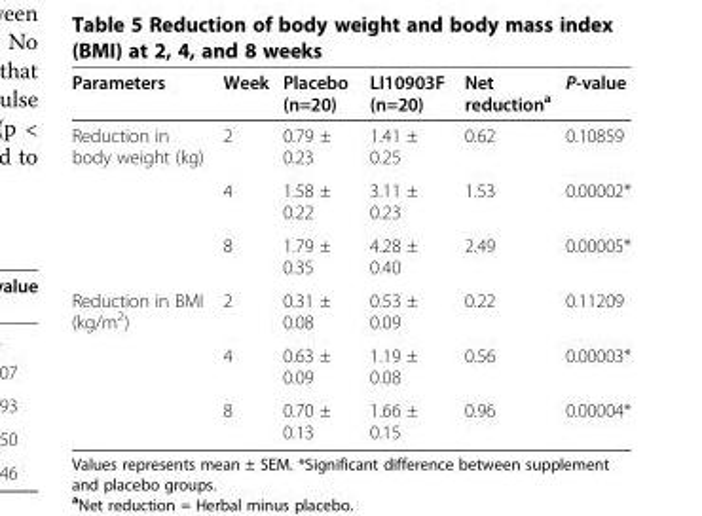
<table><thead><tr><td>Parameters</td><td>Week</td><td>Placebo (n=20)</td><td>LI10903F (n=20)</td><td>Net reduction<sup>a</sup></td><td>P-value</td></tr></thead><tbody><tr><td rowspan="3">Reduction in body weight (kg)</td><td>2</td><td>0.79 ± 0.23</td><td>1.41 ± 0.25</td><td>0.62</td><td>0.10859</td></tr><tr><td>4</td><td>1.58 ± 0.22</td><td>3.11 ± 0.23</td><td>1.53</td><td>0.00002*</td></tr><tr><td>8</td><td>1.79 ± 0.35</td><td>4.28 ± 0.40</td><td>2.49</td><td>0.00005*</td></tr><tr><td rowspan="3">Reduction in BMI (kg/m<sup>2</sup>)</td><td>2</td><td>0.31 ± 0.08</td><td>0.53 ± 0.09</td><td>0.22</td><td>0.11209</td></tr><tr><td>4</td><td>0.63 ± 0.09</td><td>1.19 ± 0.08</td><td>0.56</td><td>0.00003*</td></tr><tr><td>8</td><td>0.70 ± 0.13</td><td>1.66 ± 0.15</td><td>0.96</td><td>0.00004*</td></tr></tbody></table>